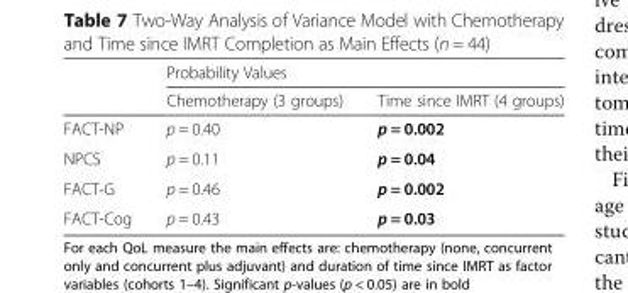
<table><thead><tr><td rowspan="2"></td><td colspan="2">Probability Values</td></tr><tr><td>Chemotherapy (3 groups)</td><td>Time since IMRT (4 groups)</td></tr></thead><tbody><tr><td>FACT-NP</td><td>p = 0.40</td><td>p = 0.002</td></tr><tr><td>NPCS</td><td>p = 0.11</td><td>p = 0.04</td></tr><tr><td>FACT-G</td><td>p = 0.46</td><td>p = 0.002</td></tr><tr><td>FACT-Cog</td><td>p = 0.43</td><td>p = 0.03</td></tr></tbody></table>